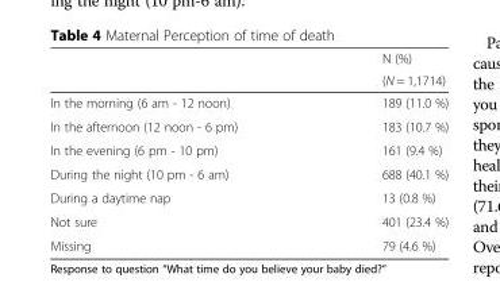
<table><thead><tr><td rowspan="2"></td><td rowspan="2">N (%) (N = 1,1714)</td></tr><tr></tr></thead><tbody><tr><td>In the morning (6 am - 12 noon)</td><td>189 (11.0 %)</td></tr><tr><td>In the afternoon (12 noon - 6 pm)</td><td>183 (10.7 %)</td></tr><tr><td>In the evening (6 pm - 10 pm)</td><td>161 (9.4 %)</td></tr><tr><td>During the night (10 pm - 6 am)</td><td>688 (40.1 %)</td></tr><tr><td>During a daytime nap</td><td>13 (0.8 %)</td></tr><tr><td>Not sure</td><td>401 (23.4 %)</td></tr><tr><td>Missing</td><td>79 (4.6 %)</td></tr></tbody></table>